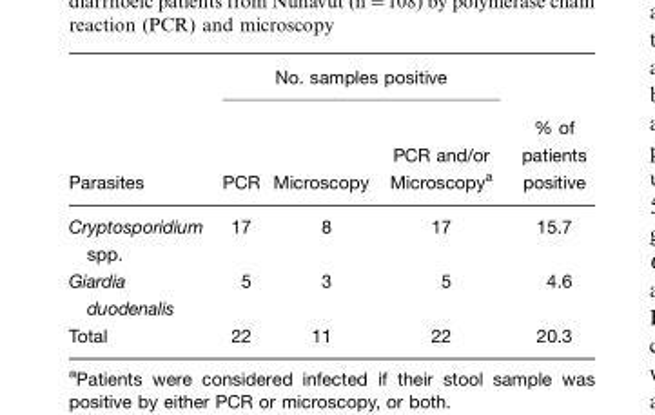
<table><thead><tr><td rowspan="2">Parasites</td><td colspan="3">No. samples positive</td><td rowspan="2">% of patients positive</td></tr><tr><td>PCR</td><td>Microscopy</td><td>PCR and/or Microscopy<sup>a</sup></td></tr></thead><tbody><tr><td>Cryptosporidium spp.</td><td>17</td><td>8</td><td>17</td><td>15.7</td></tr><tr><td>Giardia duodenalis</td><td>5</td><td>3</td><td>5</td><td>4.6</td></tr><tr><td>Total</td><td>22</td><td>11</td><td>22</td><td>20.3</td></tr></tbody></table>